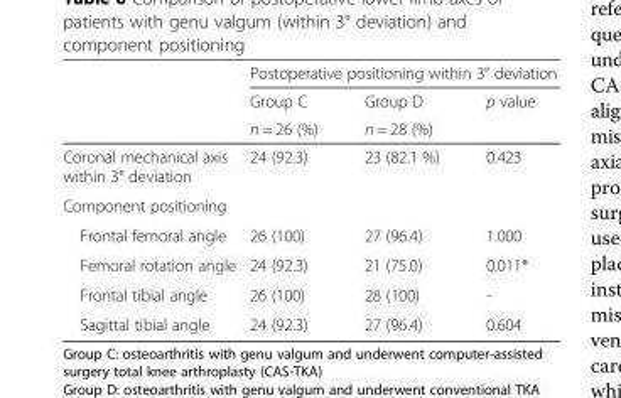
<table><thead><tr><td rowspan="3"></td><td colspan="3">Postoperative positioning within 3° deviation</td></tr><tr><td rowspan="2">Group C n = 26 (%)</td><td rowspan="2">Group D n = 28 (%)</td><td rowspan="2">p value</td></tr><tr></tr></thead><tbody><tr><td>Coronal mechanical axis within 3° deviation</td><td>24 (92.3)</td><td>23 (82.1 %)</td><td>0.423</td></tr><tr><td colspan="4">Component positioning</td></tr><tr><td>Frontal femoral angle</td><td>26 (100)</td><td>27 (96.4)</td><td>1.000</td></tr><tr><td>Femoral rotation angle</td><td>24 (92.3)</td><td>21 (75.0)</td><td>0.011*</td></tr><tr><td>Frontal tibial angle</td><td>26 (100)</td><td>28 (100)</td><td>-</td></tr><tr><td>Sagittal tibial angle</td><td>24 (92.3)</td><td>27 (96.4)</td><td>0.604</td></tr></tbody></table>